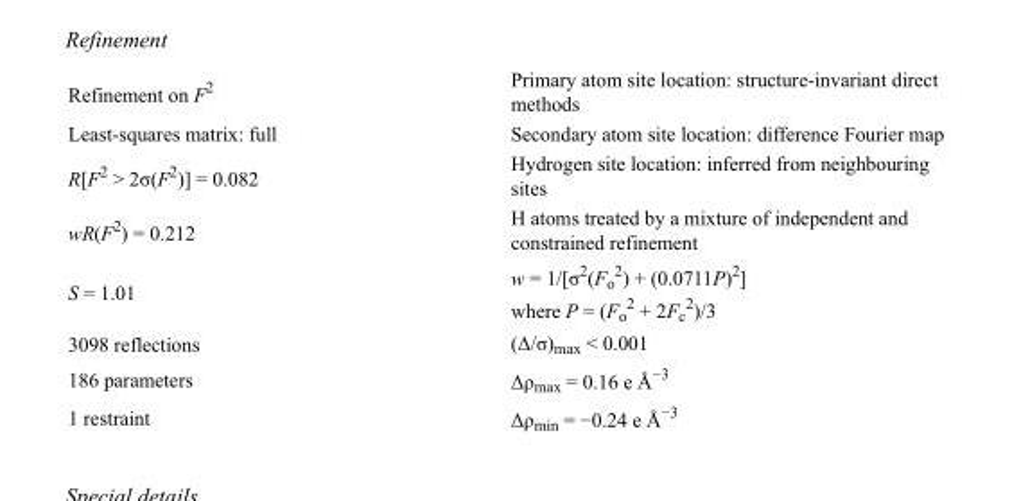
<table><tbody><tr><td>Refinement on F<sup>2</sup></td><td>Primary atom site location: structure-invariant direct methods</td></tr><tr><td>Least-squares matrix: full</td><td>Secondary atom site location: difference Fourier map</td></tr><tr><td>R[F<sup>2</sup> &gt; 2σ(F<sup>2</sup>)] = 0.082</td><td>Hydrogen site location: inferred from neighbouring sites</td></tr><tr><td>wR(F<sup>2</sup>) = 0.212</td><td>H atoms treated by a mixture of independent and constrained refinement</td></tr><tr><td>S = 1.01</td><td>w = 1/[σ<sup>2</sup>(F<sub>o</sub> <sup>2</sup>) + (0.0711P)<sup>2</sup>] where P = (F<sub>o</sub> <sup>2</sup> + 2F<sub>c</sub> <sup>2</sup>)/3</td></tr><tr><td>3098 reflections</td><td>(Δ/σ)<sub>max</sub> &lt; 0.001</td></tr><tr><td>186 parameters</td><td>Δρ<sub>max</sub> = 0.16 e Å<sup>−3</sup></td></tr><tr><td>1 restraint</td><td>Δρ<sub>min</sub> = −0.24 e Å<sup>−3</sup></td></tr></tbody></table>